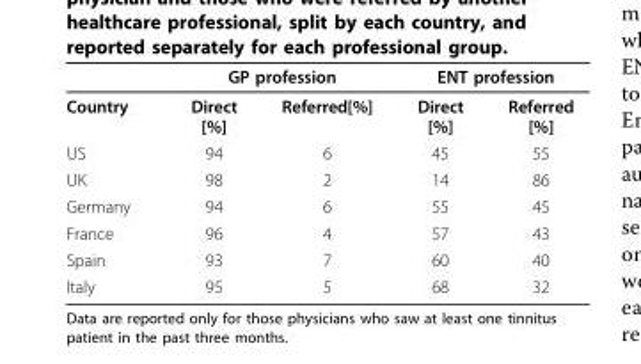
<table><thead><tr><td rowspan="2">Country</td><td colspan="2">GP profession</td><td colspan="2">ENT profession</td></tr><tr><td>Direct [%]</td><td>Referred[%]</td><td>Direct [%]</td><td>Referred [%]</td></tr></thead><tbody><tr><td>US</td><td>94</td><td>6</td><td>45</td><td>55</td></tr><tr><td>UK</td><td>98</td><td>2</td><td>14</td><td>86</td></tr><tr><td>Germany</td><td>94</td><td>6</td><td>55</td><td>45</td></tr><tr><td>France</td><td>96</td><td>4</td><td>57</td><td>43</td></tr><tr><td>Spain</td><td>93</td><td>7</td><td>60</td><td>40</td></tr><tr><td>Italy</td><td>95</td><td>5</td><td>68</td><td>32</td></tr></tbody></table>